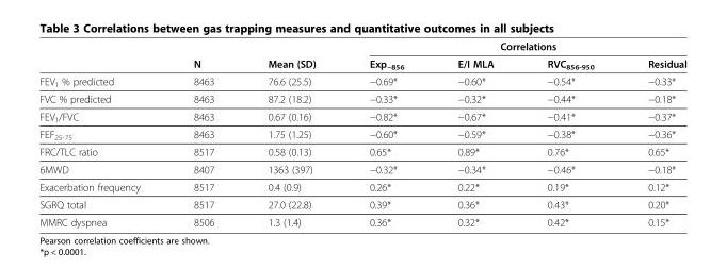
<table><thead><tr><td rowspan="2"></td><td rowspan="2">N</td><td rowspan="2">Mean (SD)</td><td colspan="4">Correlations</td></tr><tr><td>Exp<sub>−856</sub></td><td>E/I MLA</td><td>RVC<sub>856-950</sub></td><td>Residual</td></tr></thead><tbody><tr><td>FEV<sub>1</sub> % predicted</td><td>8463</td><td>76.6 (25.5)</td><td>−0.69*</td><td>−0.60*</td><td>−0.54*</td><td>−0.33*</td></tr><tr><td>FVC % predicted</td><td>8463</td><td>87.2 (18.2)</td><td>−0.33*</td><td>−0.32*</td><td>−0.44*</td><td>−0.18*</td></tr><tr><td>FEV<sub>1</sub>/FVC</td><td>8463</td><td>0.67 (0.16)</td><td>−0.82*</td><td>−0.67*</td><td>−0.41*</td><td>−0.37*</td></tr><tr><td>FEF<sub>25-75</sub></td><td>8463</td><td>1.75 (1.25)</td><td>−0.60*</td><td>−0.59*</td><td>−0.38*</td><td>−0.36*</td></tr><tr><td>FRC/TLC ratio</td><td>8517</td><td>0.58 (0.13)</td><td>0.65*</td><td>0.89*</td><td>0.76*</td><td>0.65*</td></tr><tr><td>6MWD</td><td>8407</td><td>1363 (397)</td><td>−0.32*</td><td>−0.34*</td><td>−0.46*</td><td>−0.18*</td></tr><tr><td>Exacerbation frequency</td><td>8517</td><td>0.4 (0.9)</td><td>0.26*</td><td>0.22*</td><td>0.19*</td><td>0.12*</td></tr><tr><td>SGRQ total</td><td>8517</td><td>27.0 (22.8)</td><td>0.39*</td><td>0.36*</td><td>0.43*</td><td>0.20*</td></tr><tr><td>MMRC dyspnea</td><td>8506</td><td>1.3 (1.4)</td><td>0.36*</td><td>0.32*</td><td>0.42*</td><td>0.15*</td></tr></tbody></table>